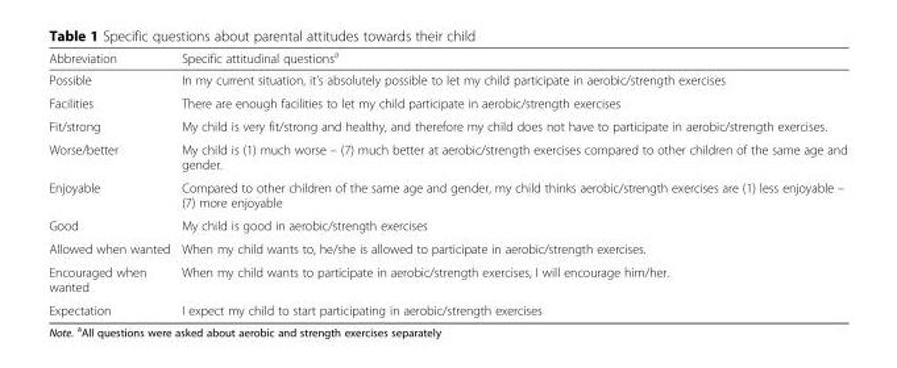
<table><thead><tr><td>Abbreviation</td><td>Specific attitudinal questions<sup>a</sup></td></tr></thead><tbody><tr><td>Possible</td><td>In my current situation, it’s absolutely possible to let my child participate in aerobic/strength exercises</td></tr><tr><td>Facilities</td><td>There are enough facilities to let my child participate in aerobic/strength exercises</td></tr><tr><td>Fit/strong</td><td>My child is very fit/strong and healthy, and therefore my child does not have to participate in aerobic/strength exercises.</td></tr><tr><td>Worse/better</td><td>My child is (1) much worse – (7) much better at aerobic/strength exercises compared to other children of the same age and gender.</td></tr><tr><td>Enjoyable</td><td>Compared to other children of the same age and gender, my child thinks aerobic/strength exercises are (1) less enjoyable – (7) more enjoyable</td></tr><tr><td>Good</td><td>My child is good in aerobic/strength exercises</td></tr><tr><td>Allowed when wanted</td><td>When my child wants to, he/she is allowed to participate in aerobic/strength exercises.</td></tr><tr><td>Encouraged when wanted</td><td>When my child wants to participate in aerobic/strength exercises, I will encourage him/her.</td></tr><tr><td>Expectation</td><td>I expect my child to start participating in aerobic/strength exercises</td></tr></tbody></table>